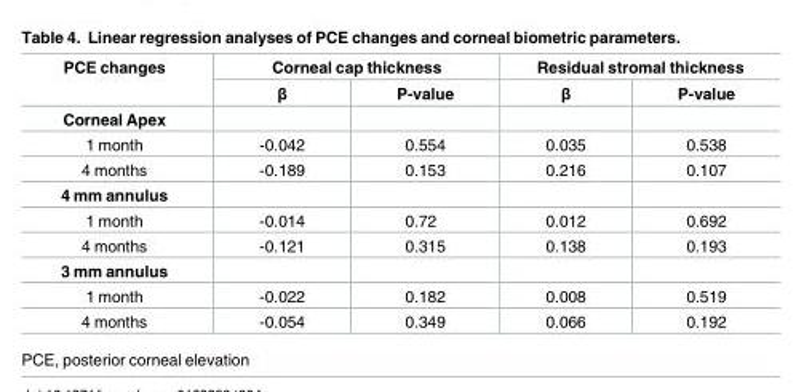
<table><thead><tr><td rowspan="2">PCE changes</td><td colspan="2">Corneal cap thickness</td><td colspan="2">Residual stromal thickness</td></tr><tr><td>β</td><td>P-value</td><td>β</td><td>P-value</td></tr></thead><tbody><tr><td colspan="5">Corneal Apex</td></tr><tr><td>1 month</td><td>-0.042</td><td>0.554</td><td>0.035</td><td>0.538</td></tr><tr><td>4 months</td><td>-0.189</td><td>0.153</td><td>0.216</td><td>0.107</td></tr><tr><td colspan="5">4 mm annulus</td></tr><tr><td>1 month</td><td>-0.014</td><td>0.72</td><td>0.012</td><td>0.692</td></tr><tr><td>4 months</td><td>-0.121</td><td>0.315</td><td>0.138</td><td>0.193</td></tr><tr><td colspan="5">3 mm annulus</td></tr><tr><td>1 month</td><td>-0.022</td><td>0.182</td><td>0.008</td><td>0.519</td></tr><tr><td>4 months</td><td>-0.054</td><td>0.349</td><td>0.066</td><td>0.192</td></tr></tbody></table>